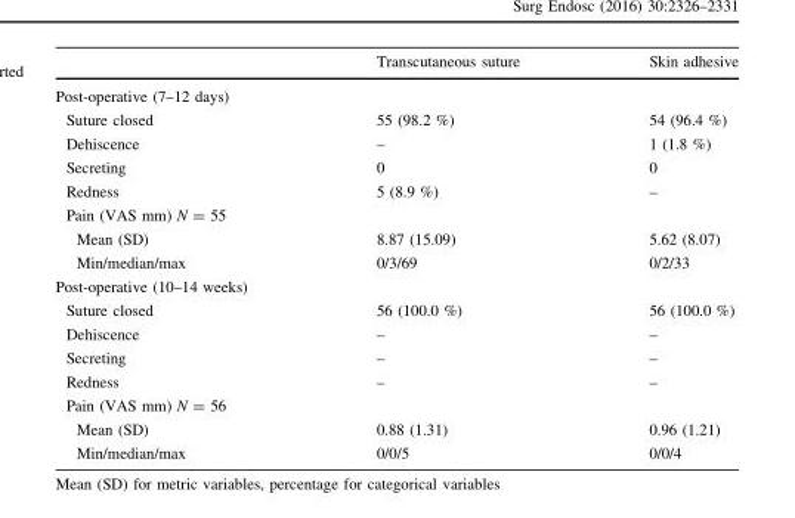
<table><thead><tr><td></td><td>Transcutaneous suture</td><td>Skin adhesive</td></tr></thead><tbody><tr><td colspan="3">Post-operative (7–12 days)</td></tr><tr><td>Suture closed</td><td>55 (98.2 %)</td><td>54 (96.4 %)</td></tr><tr><td>Dehiscence</td><td>–</td><td>1 (1.8 %)</td></tr><tr><td>Secreting</td><td>0</td><td>0</td></tr><tr><td>Redness</td><td>5 (8.9 %)</td><td>–</td></tr><tr><td colspan="3">Pain (VAS mm) N = 55</td></tr><tr><td>Mean (SD)</td><td>8.87 (15.09)</td><td>5.62 (8.07)</td></tr><tr><td>Min/median/max</td><td>0/3/69</td><td>0/2/33</td></tr><tr><td colspan="3">Post-operative (10–14 weeks)</td></tr><tr><td>Suture closed</td><td>56 (100.0 %)</td><td>56 (100.0 %)</td></tr><tr><td>Dehiscence</td><td>–</td><td>–</td></tr><tr><td>Secreting</td><td>–</td><td>–</td></tr><tr><td>Redness</td><td>–</td><td>–</td></tr><tr><td colspan="3">Pain (VAS mm) N = 56</td></tr><tr><td>Mean (SD)</td><td>0.88 (1.31)</td><td>0.96 (1.21)</td></tr><tr><td>Min/median/max</td><td>0/0/5</td><td>0/0/4</td></tr></tbody></table>